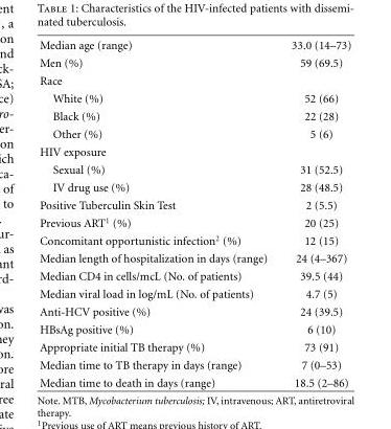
<table><tbody><tr><td>Median age (range)</td><td>33.0 (14–73)</td></tr><tr><td>Men (%)</td><td>59 (69.5)</td></tr><tr><td colspan="2">Race</td></tr><tr><td>White (%)</td><td>52 (66)</td></tr><tr><td>Black (%)</td><td>22 (28)</td></tr><tr><td>Other (%)</td><td>5 (6)</td></tr><tr><td colspan="2">HIV exposure</td></tr><tr><td>Sexual (%)</td><td>31 (52.5)</td></tr><tr><td>IV drug use (%)</td><td>28 (48.5)</td></tr><tr><td>Positive Tuberculin Skin Test</td><td>2 (5.5)</td></tr><tr><td>Previous ART<sup>1</sup> (%)</td><td>20 (25)</td></tr><tr><td>Concomitant opportunistic infection<sup>2</sup> (%)</td><td>12 (15)</td></tr><tr><td>Median length of hospitalization in days (range)</td><td>24 (4–367)</td></tr><tr><td>Median CD4 in cells/mcL (No. of patients)</td><td>39.5 (44)</td></tr><tr><td>Median viral load in log/mL (No. of patients)</td><td>4.7 (5)</td></tr><tr><td>Anti-HCV positive (%)</td><td>24 (39.5)</td></tr><tr><td>HBsAg positive (%)</td><td>6 (10)</td></tr><tr><td>Appropriate initial TB therapy (%)</td><td>73 (91)</td></tr><tr><td>Median time to TB therapy in days (range)</td><td>7 (0–53)</td></tr><tr><td>Median time to death in days (range)</td><td>18.5 (2–86)</td></tr></tbody></table>